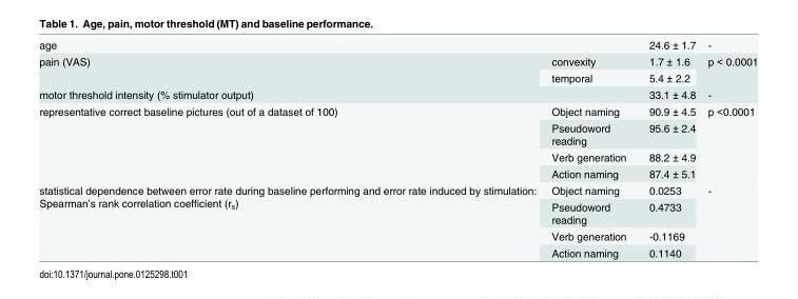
<table><tbody><tr><td>age</td><td></td><td>24.6 ± 1.7</td><td>-</td></tr><tr><td rowspan="2">pain (VAS)</td><td>convexity</td><td>1.7 ± 1.6</td><td rowspan="2">p &lt; 0.0001</td></tr><tr><td>temporal</td><td>5.4 ± 2.2</td></tr><tr><td>motor threshold intensity (% stimulator output)</td><td></td><td>33.1 ± 4.8</td><td>-</td></tr><tr><td rowspan="4">representative correct baseline pictures (out of a dataset of 100)</td><td>Object naming</td><td>90.9 ± 4.5</td><td rowspan="4">p &lt;0.0001</td></tr><tr><td>Pseudoword reading</td><td>95.6 ± 2.4</td></tr><tr><td>Verb generation</td><td>88.2 ± 4.9</td></tr><tr><td>Action naming</td><td>87.4 ± 5.1</td></tr><tr><td rowspan="4">statistical dependence between error rate during baseline performing and error rate induced by stimulation: Spearman’s rank correlation coefficient (r<sub>s</sub>)</td><td>Object naming</td><td>0.0253</td><td rowspan="4">-</td></tr><tr><td>Pseudoword reading</td><td>0.4733</td></tr><tr><td>Verb generation</td><td>-0.1169</td></tr><tr><td>Action naming</td><td>0.1140</td></tr></tbody></table>